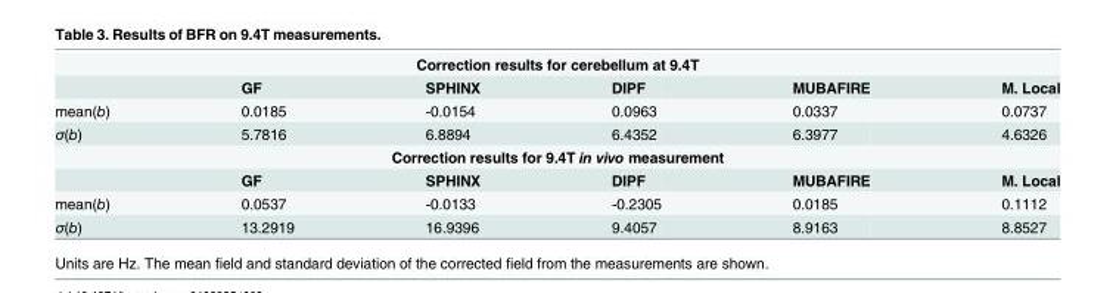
<table><tbody><tr><td colspan="6">Correction results for cerebellum at 9.4T</td></tr><tr><td></td><td>GF</td><td>SPHINX</td><td>DIPF</td><td>MUBAFIRE</td><td>M. Local</td></tr><tr><td>mean(b)</td><td>0.0185</td><td>-0.0154</td><td>0.0963</td><td>0.0337</td><td>0.0737</td></tr><tr><td>σ(b)</td><td>5.7816</td><td>6.8894</td><td>6.4352</td><td>6.3977</td><td>4.6326</td></tr><tr><td colspan="6">Correction results for 9.4T in vivo measurement</td></tr><tr><td></td><td>GF</td><td>SPHINX</td><td>DIPF</td><td>MUBAFIRE</td><td>M. Local</td></tr><tr><td>mean(b)</td><td>0.0537</td><td>-0.0133</td><td>-0.2305</td><td>0.0185</td><td>0.1112</td></tr><tr><td>σ(b)</td><td>13.2919</td><td>16.9396</td><td>9.4057</td><td>8.9163</td><td>8.8527</td></tr></tbody></table>